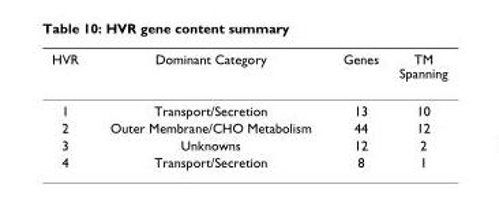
<table><thead><tr><td>HVR</td><td>Dominant Category</td><td>Genes</td><td>TM Spanning</td></tr></thead><tbody><tr><td>1</td><td>Transport/Secretion</td><td>13</td><td>10</td></tr><tr><td>2</td><td>Outer Membrane/CHO Metabolism</td><td>44</td><td>12</td></tr><tr><td>3</td><td>Unknowns</td><td>12</td><td>2</td></tr><tr><td>4</td><td>Transport/Secretion</td><td>8</td><td>1</td></tr></tbody></table>